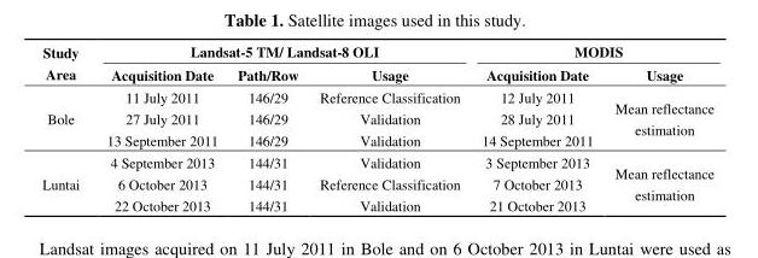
<table><thead><tr><td rowspan="2">Study Area</td><td colspan="3">Landsat-5 TM/ Landsat-8 OLI</td><td colspan="2">MODIS</td></tr><tr><td>Acquisition Date</td><td>Path/Row</td><td>Usage</td><td>Acquisition Date</td><td>Usage</td></tr></thead><tbody><tr><td rowspan="3">Bole</td><td>11 July 2011</td><td>146/29</td><td>Reference Classification</td><td>12 July 2011</td><td rowspan="3">Mean reflectance estimation</td></tr><tr><td>27 July 2011</td><td>146/29</td><td>Validation</td><td>28 July 2011</td></tr><tr><td>13 September 2011</td><td>146/29</td><td>Validation</td><td>14 September 2011</td></tr><tr><td rowspan="3">Luntai</td><td>4 September 2013</td><td>144/31</td><td>Validation</td><td>3 September 2013</td><td rowspan="3">Mean reflectance estimation</td></tr><tr><td>6 October 2013</td><td>144/31</td><td>Reference Classification</td><td>7 October 2013</td></tr><tr><td>22 October 2013</td><td>144/31</td><td>Validation</td><td>21 October 2013</td></tr></tbody></table>